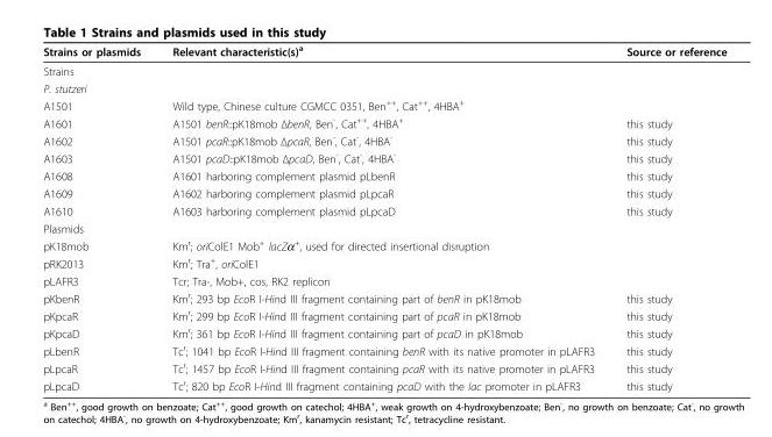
<table><thead><tr><td>Strains or plasmids</td><td>Relevant characteristic(s)<sup>a</sup></td><td>Source or reference</td></tr></thead><tbody><tr><td colspan="3">Strains</td></tr><tr><td colspan="3">P. stutzeri</td></tr><tr><td>A1501</td><td>Wild type, Chinese culture CGMCC 0351, Ben<sup>++</sup>, Cat<sup>++</sup>, 4HBA<sup>+</sup></td><td></td></tr><tr><td>A1601</td><td>A1501 benR::pK18mob ΔbenR, Ben<sup>-</sup>, Cat<sup>++</sup>, 4HBA<sup>+</sup></td><td>this study</td></tr><tr><td>A1602</td><td>A1501 pcaR::pK18mob ΔpcaR, Ben<sup>-</sup>, Cat<sup>-</sup>, 4HBA<sup>-</sup></td><td>this study</td></tr><tr><td>A1603</td><td>A1501 pcaD::pK18mob ΔpcaD, Ben<sup>-</sup>, Cat<sup>-</sup>, 4HBA<sup>-</sup></td><td>this study</td></tr><tr><td>A1608</td><td>A1601 harboring complement plasmid pLbenR</td><td>this study</td></tr><tr><td>A1609</td><td>A1602 harboring complement plasmid pLpcaR</td><td>this study</td></tr><tr><td>A1610</td><td>A1603 harboring complement plasmid pLpcaD</td><td>this study</td></tr><tr><td colspan="3">Plasmids</td></tr><tr><td>pK18mob</td><td>Km<sup>r</sup>; oriColE1 Mob<sup>+</sup> lacZα<sup>+</sup>, used for directed insertional disruption</td><td></td></tr><tr><td>pRK2013</td><td>Km<sup>r</sup>; Tra<sup>+</sup>, oriColE1</td><td></td></tr><tr><td>pLAFR3</td><td>Tcr; Tra-, Mob+, cos, RK2 replicon</td><td></td></tr><tr><td>pKbenR</td><td>Km<sup>r</sup>; 293 bp EcoR I-Hind III fragment containing part of benR in pK18mob</td><td>this study</td></tr><tr><td>pKpcaR</td><td>Km<sup>r</sup>; 299 bp EcoR I-Hind III fragment containing part of pcaR in pK18mob</td><td>this study</td></tr><tr><td>pKpcaD</td><td>Km<sup>r</sup>; 361 bp EcoR I-Hind III fragment containing part of pcaD in pK18mob</td><td>this study</td></tr><tr><td>pLbenR</td><td>Tc<sup>r</sup>; 1041 bp EcoR I-Hind III fragment containing benR with its native promoter in pLAFR3</td><td>this study</td></tr><tr><td>pLpcaR</td><td>Tc<sup>r</sup>; 1457 bp EcoR I-Hind III fragment containing pcaR with its native promoter in pLAFR3</td><td>this study</td></tr><tr><td>pLpcaD</td><td>Tc<sup>r</sup>; 820 bp EcoR I-Hind III fragment containing pcaD with the lac promoter in pLAFR3</td><td>this study</td></tr></tbody></table>